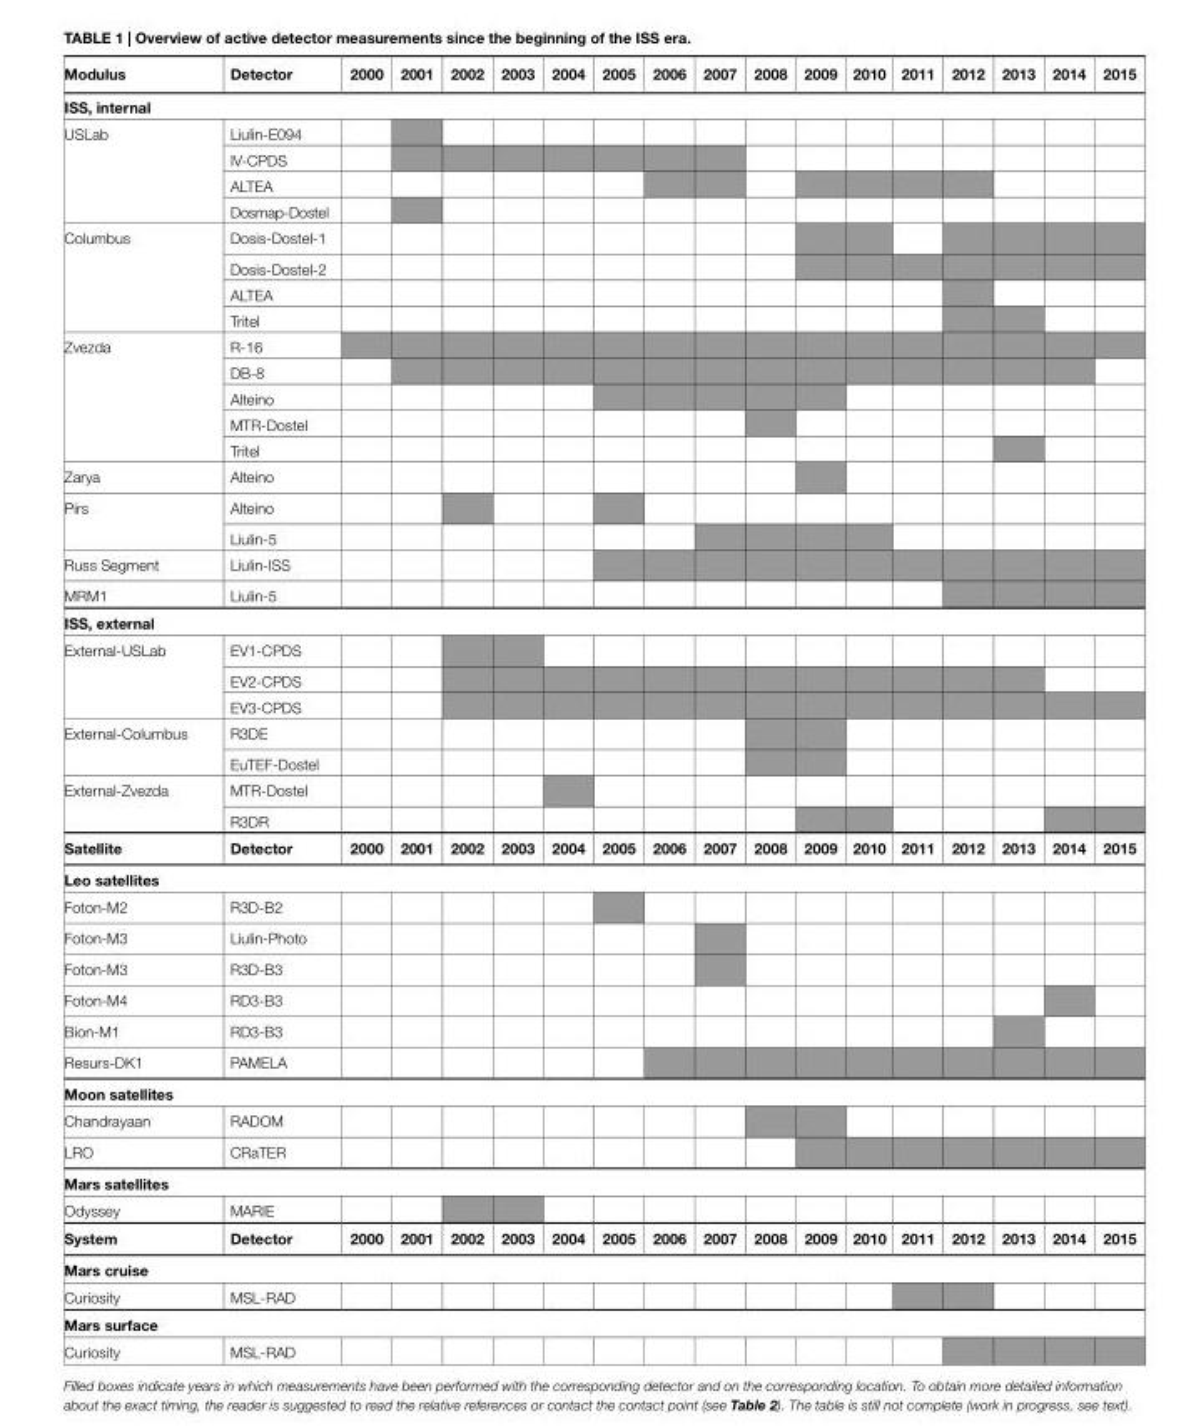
<table><thead><tr><td>Modulus</td><td>Detector</td><td>2000</td><td>2001</td><td>2002</td><td>2003</td><td>2004</td><td>2005</td><td>2006</td><td>2007</td><td>2008</td><td>2009</td><td>2010</td><td>2011</td><td>2012</td><td>2013</td><td>2014</td><td>2015</td></tr></thead><tbody><tr><td colspan="18">iSS, internal</td></tr><tr><td rowspan="4">USLab</td><td>Liulin-E094</td><td></td><td></td><td></td><td></td><td></td><td></td><td></td><td></td><td></td><td></td><td></td><td></td><td></td><td></td><td></td><td></td></tr><tr><td>IV-CPDS</td><td></td><td></td><td></td><td></td><td></td><td></td><td></td><td></td><td></td><td></td><td></td><td></td><td></td><td></td><td></td><td></td></tr><tr><td>ALTEA</td><td></td><td></td><td></td><td></td><td></td><td></td><td></td><td></td><td></td><td></td><td></td><td></td><td></td><td></td><td></td><td></td></tr><tr><td>Dosmap-Dostel</td><td></td><td></td><td></td><td></td><td></td><td></td><td></td><td></td><td></td><td></td><td></td><td></td><td></td><td></td><td></td><td></td></tr><tr><td rowspan="4">Columbus</td><td>Dosis-Dostel-1</td><td></td><td></td><td></td><td></td><td></td><td></td><td></td><td></td><td></td><td></td><td></td><td></td><td></td><td></td><td></td><td></td></tr><tr><td>Dosis-Dostel-2</td><td></td><td></td><td></td><td></td><td></td><td></td><td></td><td></td><td></td><td></td><td></td><td></td><td></td><td></td><td></td><td></td></tr><tr><td>ALTEA</td><td></td><td></td><td></td><td></td><td></td><td></td><td></td><td></td><td></td><td></td><td></td><td></td><td></td><td></td><td></td><td></td></tr><tr><td>Tritel</td><td></td><td></td><td></td><td></td><td></td><td></td><td></td><td></td><td></td><td></td><td></td><td></td><td></td><td></td><td></td><td></td></tr><tr><td rowspan="5">Zvezda</td><td>R-16</td><td></td><td></td><td></td><td></td><td></td><td></td><td></td><td></td><td></td><td></td><td></td><td></td><td></td><td></td><td></td><td></td></tr><tr><td>DB-8</td><td></td><td></td><td></td><td></td><td></td><td></td><td></td><td></td><td></td><td></td><td></td><td></td><td></td><td></td><td></td><td></td></tr><tr><td>Alteino</td><td></td><td></td><td></td><td></td><td></td><td></td><td></td><td></td><td></td><td></td><td></td><td></td><td></td><td></td><td></td><td></td></tr><tr><td>MTR-Dostel</td><td></td><td></td><td></td><td></td><td></td><td></td><td></td><td></td><td></td><td></td><td></td><td></td><td></td><td></td><td></td><td></td></tr><tr><td>Tritel</td><td></td><td></td><td></td><td></td><td></td><td></td><td></td><td></td><td></td><td></td><td></td><td></td><td></td><td></td><td></td><td></td></tr><tr><td>Zarya</td><td>Alteino</td><td></td><td></td><td></td><td></td><td></td><td></td><td></td><td></td><td></td><td></td><td></td><td></td><td></td><td></td><td></td><td></td></tr><tr><td rowspan="2">Pirs</td><td>Alteino</td><td></td><td></td><td></td><td></td><td></td><td></td><td></td><td></td><td></td><td></td><td></td><td></td><td></td><td></td><td></td><td></td></tr><tr><td>Liulin-5</td><td></td><td></td><td></td><td></td><td></td><td></td><td></td><td></td><td></td><td></td><td></td><td></td><td></td><td></td><td></td><td></td></tr><tr><td>Russ Segment</td><td>Liulin-ISS</td><td></td><td></td><td></td><td></td><td></td><td></td><td></td><td></td><td></td><td></td><td></td><td></td><td></td><td></td><td></td><td></td></tr><tr><td>MRM1</td><td>Liulin-5</td><td></td><td></td><td></td><td></td><td></td><td></td><td></td><td></td><td></td><td></td><td></td><td></td><td></td><td></td><td></td><td></td></tr><tr><td colspan="18">iSS, external</td></tr><tr><td rowspan="3">External-USLab</td><td>EV1-CPDS</td><td></td><td></td><td></td><td></td><td></td><td></td><td></td><td></td><td></td><td></td><td></td><td></td><td></td><td></td><td></td><td></td></tr><tr><td>EV2-CPDS</td><td></td><td></td><td></td><td></td><td></td><td></td><td></td><td></td><td></td><td></td><td></td><td></td><td></td><td></td><td></td><td></td></tr><tr><td>EV3-CPDS</td><td></td><td></td><td></td><td></td><td></td><td></td><td></td><td></td><td></td><td></td><td></td><td></td><td></td><td></td><td></td><td></td></tr><tr><td rowspan="2">External-Columbus</td><td>R3DE</td><td></td><td></td><td></td><td></td><td></td><td></td><td></td><td></td><td></td><td></td><td></td><td></td><td></td><td></td><td></td><td></td></tr><tr><td>EuTEF-Dostel</td><td></td><td></td><td></td><td></td><td></td><td></td><td></td><td></td><td></td><td></td><td></td><td></td><td></td><td></td><td></td><td></td></tr><tr><td rowspan="2">External-Zvezda</td><td>MTR-Dostel</td><td></td><td></td><td></td><td></td><td></td><td></td><td></td><td></td><td></td><td></td><td></td><td></td><td></td><td></td><td></td><td></td></tr><tr><td>R3DR</td><td></td><td></td><td></td><td></td><td></td><td></td><td></td><td></td><td></td><td></td><td></td><td></td><td></td><td></td><td></td><td></td></tr><tr><td>Satellite</td><td>Detector</td><td>2000</td><td>2001</td><td>2002</td><td>2003</td><td>2004</td><td>2005</td><td>2006</td><td>2007</td><td>2008</td><td>2009</td><td>2010</td><td>2011</td><td>2012</td><td>2013</td><td>2014</td><td>2015</td></tr><tr><td colspan="18">Leo satellites</td></tr><tr><td>Foton-M2</td><td>R3D-B2</td><td></td><td></td><td></td><td></td><td></td><td></td><td></td><td></td><td></td><td></td><td></td><td></td><td></td><td></td><td></td><td></td></tr><tr><td>Foton-M3</td><td>Liulin-Photo</td><td></td><td></td><td></td><td></td><td></td><td></td><td></td><td></td><td></td><td></td><td></td><td></td><td></td><td></td><td></td><td></td></tr><tr><td>Foton-M3</td><td>R3D-B3</td><td></td><td></td><td></td><td></td><td></td><td></td><td></td><td></td><td></td><td></td><td></td><td></td><td></td><td></td><td></td><td></td></tr><tr><td>Foton-M4</td><td>RD3-B3</td><td></td><td></td><td></td><td></td><td></td><td></td><td></td><td></td><td></td><td></td><td></td><td></td><td></td><td></td><td></td><td></td></tr><tr><td>Bion-M1</td><td>RD3-B3</td><td></td><td></td><td></td><td></td><td></td><td></td><td></td><td></td><td></td><td></td><td></td><td></td><td></td><td></td><td></td><td></td></tr><tr><td>Resurs-DK1</td><td>PAMELA</td><td></td><td></td><td></td><td></td><td></td><td></td><td></td><td></td><td></td><td></td><td></td><td></td><td></td><td></td><td></td><td></td></tr><tr><td colspan="18">Moon satellites</td></tr><tr><td>Chandrayaan</td><td>RADOM</td><td></td><td></td><td></td><td></td><td></td><td></td><td></td><td></td><td></td><td></td><td></td><td></td><td></td><td></td><td></td><td></td></tr><tr><td>LRO</td><td>CRaTER</td><td></td><td></td><td></td><td></td><td></td><td></td><td></td><td></td><td></td><td></td><td></td><td></td><td></td><td></td><td></td><td></td></tr><tr><td colspan="18">Mars satellites</td></tr><tr><td>Odyssey</td><td>MARIE</td><td></td><td></td><td></td><td></td><td></td><td></td><td></td><td></td><td></td><td></td><td></td><td></td><td></td><td></td><td></td><td></td></tr><tr><td>System</td><td>Detector</td><td>2000</td><td>2001</td><td>2002</td><td>2003</td><td>2004</td><td>2005</td><td>2006</td><td>2007</td><td>2008</td><td>2009</td><td>2010</td><td>2011</td><td>2012</td><td>2013</td><td>2014</td><td>2015</td></tr><tr><td colspan="18">Mars cruise</td></tr><tr><td>Curiosity</td><td>MSL-RAD</td><td></td><td></td><td></td><td></td><td></td><td></td><td></td><td></td><td></td><td></td><td></td><td></td><td></td><td></td><td></td><td></td></tr><tr><td colspan="18">Mars surface</td></tr><tr><td>Curiosity</td><td>MSL-RAD</td><td></td><td></td><td></td><td></td><td></td><td></td><td></td><td></td><td></td><td></td><td></td><td></td><td></td><td></td><td></td><td></td></tr></tbody></table>